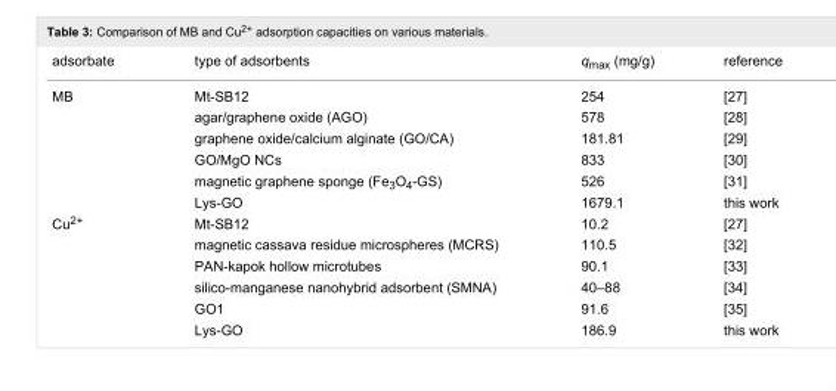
<table><tbody><tr><td>adsorbate</td><td>type of adsorbents</td><td>q<sub>max</sub> (mg/g)</td><td>reference</td></tr><tr><td rowspan="6">MB</td><td>Mt-SB12</td><td>254</td><td>[27]</td></tr><tr><td>agar/graphene oxide (AGO)</td><td>578</td><td>[28]</td></tr><tr><td>graphene oxide/calcium alginate (GO/CA)</td><td>181.81</td><td>[29]</td></tr><tr><td>GO/MgO NCs</td><td>833</td><td>[30]</td></tr><tr><td>magnetic graphene sponge (Fe<sub>3</sub>O<sub>4</sub>-GS)</td><td>526</td><td>[31]</td></tr><tr><td>Lys-GO</td><td>1679.1</td><td>this work</td></tr><tr><td rowspan="6">Cu<sup>2+</sup></td><td>Mt-SB12</td><td>10.2</td><td>[27]</td></tr><tr><td>magnetic cassava residue microspheres (MCRS)</td><td>110.5</td><td>[32]</td></tr><tr><td>PAN-kapok hollow microtubes</td><td>90.1</td><td>[33]</td></tr><tr><td>silico-manganese nanohybrid adsorbent (SMNA)</td><td>40–88</td><td>[34]</td></tr><tr><td>GO1</td><td>91.6</td><td>[35]</td></tr><tr><td>Lys-GO</td><td>186.9</td><td>this work</td></tr></tbody></table>